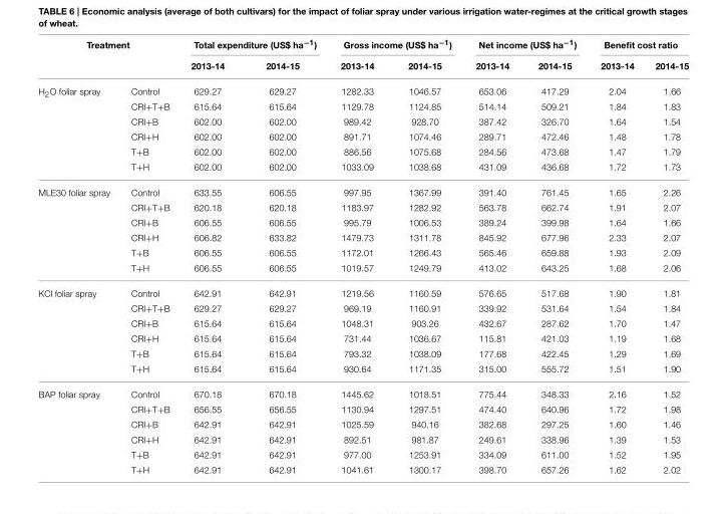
<table><thead><tr><td colspan="2">Treatment</td><td colspan="2">Total expenditure (US$ ha<sup>−1</sup>)</td><td colspan="2">Gross income (US$ ha<sup>−1</sup>)</td><td colspan="2">Net income (US$ ha<sup>−1</sup>)</td><td colspan="2">Benefit cost ratio</td></tr><tr><td></td><td></td><td>2013-14</td><td>2014-15</td><td>2013-14</td><td>2014-15</td><td>2013-14</td><td>2014-15</td><td>2013-14</td><td>2014-15</td></tr></thead><tbody><tr><td rowspan="6">H<sub>2</sub>O foliar spray</td><td>Control</td><td>629.27</td><td>629.27</td><td>1282.33</td><td>1046.57</td><td>653.06</td><td>417.29</td><td>2.04</td><td>1.66</td></tr><tr><td>CRI+T+B</td><td>615.64</td><td>615.64</td><td>1129.78</td><td>1124.85</td><td>514.14</td><td>509.21</td><td>1.84</td><td>1.83</td></tr><tr><td>CRI+B</td><td>602.00</td><td>602.00</td><td>989.42</td><td>928.70</td><td>387.42</td><td>326.70</td><td>1.64</td><td>1.54</td></tr><tr><td>CRI+H</td><td>602.00</td><td>602.00</td><td>891.71</td><td>1074.46</td><td>289.71</td><td>472.46</td><td>1.48</td><td>1.78</td></tr><tr><td>T+B</td><td>602.00</td><td>602.00</td><td>886.56</td><td>1075.68</td><td>284.56</td><td>473.68</td><td>1.47</td><td>1.79</td></tr><tr><td>T+H</td><td>602.00</td><td>602.00</td><td>1033.09</td><td>1038.68</td><td>431.09</td><td>436.68</td><td>1.72</td><td>1.73</td></tr><tr><td rowspan="6">MLE30 foliar spray</td><td>Control</td><td>633.55</td><td>606.55</td><td>997.95</td><td>1367.99</td><td>391.40</td><td>761.45</td><td>1.65</td><td>2.26</td></tr><tr><td>CRI+T+B</td><td>620.18</td><td>620.18</td><td>1183.97</td><td>1282.92</td><td>563.78</td><td>662.74</td><td>1.91</td><td>2.07</td></tr><tr><td>CRI+B</td><td>606.55</td><td>606.55</td><td>995.79</td><td>1006.53</td><td>389.24</td><td>399.98</td><td>1.64</td><td>1.66</td></tr><tr><td>CRI+H</td><td>606.82</td><td>633.82</td><td>1479.73</td><td>1311.78</td><td>845.92</td><td>677.96</td><td>2.33</td><td>2.07</td></tr><tr><td>T+B</td><td>606.55</td><td>606.55</td><td>1172.01</td><td>1266.43</td><td>565.46</td><td>659.88</td><td>1.93</td><td>2.09</td></tr><tr><td>T+H</td><td>606.55</td><td>606.55</td><td>1019.57</td><td>1249.79</td><td>413.02</td><td>643.25</td><td>1.68</td><td>2.06</td></tr><tr><td rowspan="6">KCl foliar spray</td><td>Control</td><td>642.91</td><td>642.91</td><td>1219.56</td><td>1160.59</td><td>576.65</td><td>517.68</td><td>1.90</td><td>1.81</td></tr><tr><td>CRI+T+B</td><td>629.27</td><td>629.27</td><td>969.19</td><td>1160.91</td><td>339.92</td><td>531.64</td><td>1.54</td><td>1.84</td></tr><tr><td>CRI+B</td><td>615.64</td><td>615.64</td><td>1048.31</td><td>903.26</td><td>432.67</td><td>287.62</td><td>1.70</td><td>1.47</td></tr><tr><td>CRI+H</td><td>615.64</td><td>615.64</td><td>731.44</td><td>1036.67</td><td>115.81</td><td>421.03</td><td>1.19</td><td>1.68</td></tr><tr><td>T+B</td><td>615.64</td><td>615.64</td><td>793.32</td><td>1038.09</td><td>177.68</td><td>422.45</td><td>1.29</td><td>1.69</td></tr><tr><td>T+H</td><td>615.64</td><td>615.64</td><td>930.64</td><td>1171.35</td><td>315.00</td><td>555.72</td><td>1.51</td><td>1.90</td></tr><tr><td rowspan="6">BAP foliar spray</td><td>Control</td><td>670.18</td><td>670.18</td><td>1445.62</td><td>1018.51</td><td>775.44</td><td>348.33</td><td>2.16</td><td>1.52</td></tr><tr><td>CRI+T+B</td><td>656.55</td><td>656.55</td><td>1130.94</td><td>1297.51</td><td>474.40</td><td>640.96</td><td>1.72</td><td>1.98</td></tr><tr><td>CRI+B</td><td>642.91</td><td>642.91</td><td>1025.59</td><td>940.16</td><td>382.68</td><td>297.25</td><td>1.60</td><td>1.46</td></tr><tr><td>CRI+H</td><td>642.91</td><td>642.91</td><td>892.51</td><td>981.87</td><td>249.61</td><td>338.96</td><td>1.39</td><td>1.53</td></tr><tr><td>T+B</td><td>642.91</td><td>642.91</td><td>977.00</td><td>1253.91</td><td>334.09</td><td>611.00</td><td>1.52</td><td>1.95</td></tr><tr><td>T+H</td><td>642.91</td><td>642.91</td><td>1041.61</td><td>1300.17</td><td>398.70</td><td>657.26</td><td>1.62</td><td>2.02</td></tr></tbody></table>